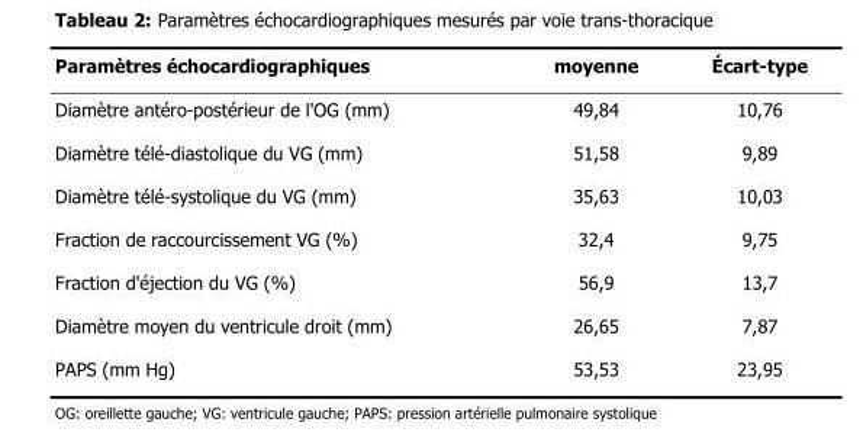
<table><thead><tr><td rowspan="8">Paramètres échocardiographiques Diamètre antéro-postérieur de l&#x27;OG (mm) Diamètre télé-diastolique du VG (mm) Diamètre télé-systolique du VG (mm) Fraction de raccourcissement VG (%) Fraction d&#x27;éjection du VG (%) Diamètre moyen du ventricule droit (mm) PAPS (mm Hg)</td><td rowspan="8">moyenne 49,84 51,58 35,63 32,4 56,9 26,65 53,53</td><td rowspan="8">Écart-type 10,76 9,89 10,03 9,75 13,7 7,87 23,95</td></tr><tr></tr><tr></tr><tr></tr><tr></tr><tr></tr><tr></tr><tr></tr></thead><tbody></tbody></table>